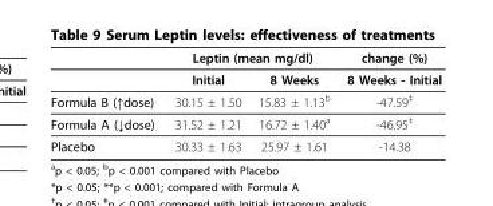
<table><thead><tr><td rowspan="2"></td><td colspan="2">Leptin (mean mg/dl)</td><td rowspan="2">change (%) 8 Weeks - Initial</td></tr><tr><td>Initial</td><td>8 Weeks</td></tr></thead><tbody><tr><td>Formula B (↑dose)</td><td>30.15 ± 1.50</td><td>15.83 ± 1.13b</td><td>-47.59‡</td></tr><tr><td>Formula A (↓dose)</td><td>31.52 ± 1.21</td><td>16.72 ± 1.40a</td><td>-46.95‡</td></tr><tr><td>Placebo</td><td>30.33 ± 1.63</td><td>25.97 ± 1.61</td><td>-14.38</td></tr></tbody></table>